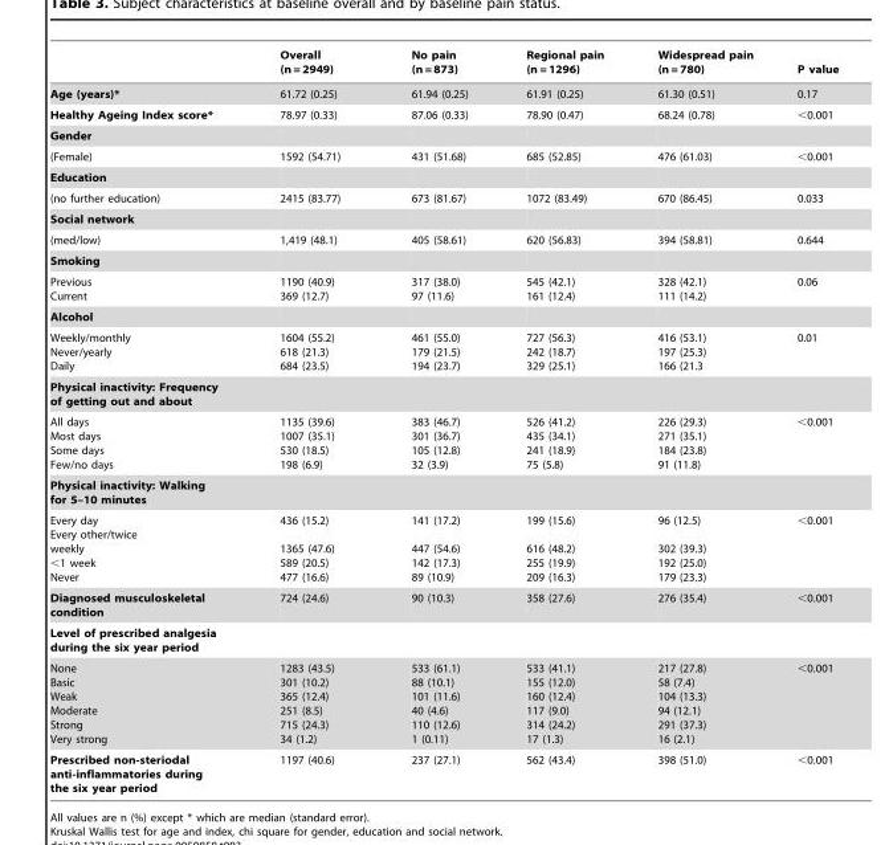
<table><thead><tr><td></td><td>Overall (n = 2949)</td><td>No pain (n = 873)</td><td>Regional pain (n = 1296)</td><td>Widespread pain (n = 780)</td><td>P value</td></tr></thead><tbody><tr><td>Age (years)*</td><td>61.72 (0.25)</td><td>61.94 (0.25)</td><td>61.91 (0.25)</td><td>61.30 (0.51)</td><td>0.17</td></tr><tr><td>Healthy Ageing Index score*</td><td>78.97 (0.33)</td><td>87.06 (0.33)</td><td>78.90 (0.47)</td><td>68.24 (0.78)</td><td>&lt;0.001</td></tr><tr><td colspan="6">Gender</td></tr><tr><td>(Female)</td><td>1592 (54.71)</td><td>431 (51.68)</td><td>685 (52.85)</td><td>476 (61.03)</td><td>&lt;0.001</td></tr><tr><td colspan="6">Education</td></tr><tr><td>(no further education)</td><td>2415 (83.77)</td><td>673 (81.67)</td><td>1072 (83.49)</td><td>670 (86.45)</td><td>0.033</td></tr><tr><td colspan="6">Social network</td></tr><tr><td>(med/low)</td><td>1,419 (48.1)</td><td>405 (58.61)</td><td>620 (56.83)</td><td>394 (58.81)</td><td>0.644</td></tr><tr><td colspan="6">Smoking</td></tr><tr><td>Previous Current</td><td>1190 (40.9) 369 (12.7)</td><td>317 (38.0) 97 (11.6)</td><td>545 (42.1) 161 (12.4)</td><td>328 (42.1) 111 (14.2)</td><td>0.06</td></tr><tr><td colspan="6">Alcohol</td></tr><tr><td>Weekly/monthly Never/yearly Daily</td><td>1604 (55.2) 618 (21.3) 684 (23.5)</td><td>461 (55.0) 179 (21.5) 194 (23.7)</td><td>727 (56.3) 242 (18.7) 329 (25.1)</td><td>416 (53.1) 197 (25.3) 166 (21.3</td><td>0.01</td></tr><tr><td colspan="6">Physical inactivity: Frequency of getting out and about</td></tr><tr><td>All days Most days Some days Few/no days</td><td>1135 (39.6) 1007 (35.1) 530 (18.5) 198 (6.9)</td><td>383 (46.7) 301 (36.7) 105 (12.8) 32 (3.9)</td><td>526 (41.2) 435 (34.1) 241 (18.9) 75 (5.8)</td><td>226 (29.3) 271 (35.1) 184 (23.8) 91 (11.8)</td><td>&lt;0.001</td></tr><tr><td colspan="6">Physical inactivity: Walking for 5–10 minutes</td></tr><tr><td>Every day Every other/twice weekly &lt;1 week Never</td><td>436 (15.2) 1365 (47.6) 589 (20.5) 477 (16.6)</td><td>141 (17.2) 447 (54.6) 142 (17.3) 89 (10.9)</td><td>199 (15.6) 616 (48.2) 255 (19.9) 209 (16.3)</td><td>96 (12.5) 302 (39.3) 192 (25.0) 179 (23.3)</td><td>&lt;0.001</td></tr><tr><td>Diagnosed musculoskeletal condition</td><td>724 (24.6)</td><td>90 (10.3)</td><td>358 (27.6)</td><td>276 (35.4)</td><td>&lt;0.001</td></tr><tr><td colspan="6">Level of prescribed analgesia during the six year period</td></tr><tr><td>None Basic Weak Moderate Strong Very strong</td><td>1283 (43.5) 301 (10.2) 365 (12.4) 251 (8.5) 715 (24.3) 34 (1.2)</td><td>533 (61.1) 88 (10.1) 101 (11.6) 40 (4.6) 110 (12.6) 1 (0.11)</td><td>533 (41.1) 155 (12.0) 160 (12.4) 117 (9.0) 314 (24.2) 17 (1.3)</td><td>217 (27.8) 58 (7.4) 104 (13.3) 94 (12.1) 291 (37.3) 16 (2.1)</td><td>&lt;0.001</td></tr><tr><td>Prescribed non-steriodal anti-inflammatories during the six year period</td><td>1197 (40.6)</td><td>237 (27.1)</td><td>562 (43.4)</td><td>398 (51.0)</td><td>&lt;0.001</td></tr></tbody></table>